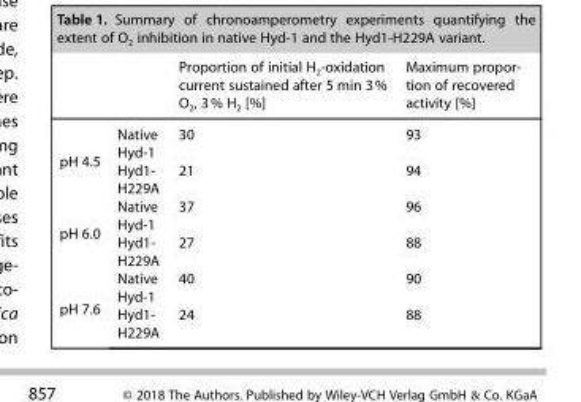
<table><thead><tr><td></td><td></td><td>Proportion of initial H<sub>2</sub>-oxidation current sustained after 5 min 3% O<sub>2</sub>, 3% H<sub>2</sub> [%]</td><td>Maximum propor- tion of recovered activity [%]</td></tr></thead><tbody><tr><td rowspan="2">pH 4.5</td><td>Native Hyd-1</td><td>30</td><td>93</td></tr><tr><td>Hyd1- H229A</td><td>21</td><td>94</td></tr><tr><td rowspan="2">pH 6.0</td><td>Native Hyd-1</td><td>37</td><td>96</td></tr><tr><td>Hyd1- H229A</td><td>27</td><td>88</td></tr><tr><td rowspan="2">pH 7.6</td><td>Native Hyd-1</td><td>40</td><td>90</td></tr><tr><td>Hyd1- H229A</td><td>24</td><td>88</td></tr></tbody></table>